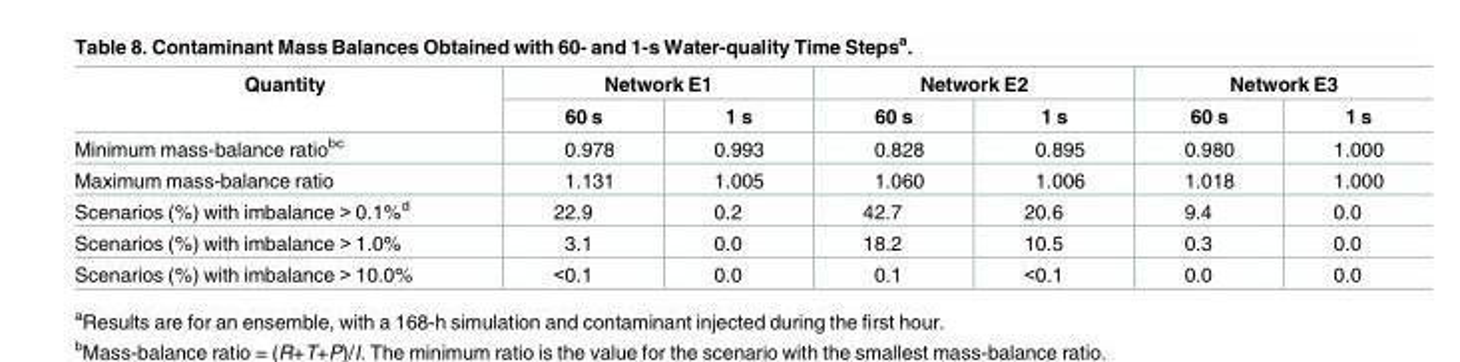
<table><thead><tr><td rowspan="2">Quantity</td><td colspan="2">Network E1</td><td colspan="2">Network E2</td><td colspan="2">Network E3</td></tr><tr><td>60 s</td><td>1 s</td><td>60 s</td><td>1 s</td><td>60 s</td><td>1 s</td></tr></thead><tbody><tr><td>Minimum mass-balance ratio<sup>bc</sup></td><td>0.978</td><td>0.993</td><td>0.828</td><td>0.895</td><td>0.980</td><td>1.000</td></tr><tr><td>Maximum mass-balance ratio</td><td>1.131</td><td>1.005</td><td>1.060</td><td>1.006</td><td>1.018</td><td>1.000</td></tr><tr><td>Scenarios (%) with imbalance &gt; 0.1%<sup>d</sup></td><td>22.9</td><td>0.2</td><td>42.7</td><td>20.6</td><td>9.4</td><td>0.0</td></tr><tr><td>Scenarios (%) with imbalance &gt; 1.0%</td><td>3.1</td><td>0.0</td><td>18.2</td><td>10.5</td><td>0.3</td><td>0.0</td></tr><tr><td>Scenarios (%) with imbalance &gt; 10.0%</td><td>&lt;0.1</td><td>0.0</td><td>0.1</td><td>&lt;0.1</td><td>0.0</td><td>0.0</td></tr></tbody></table>